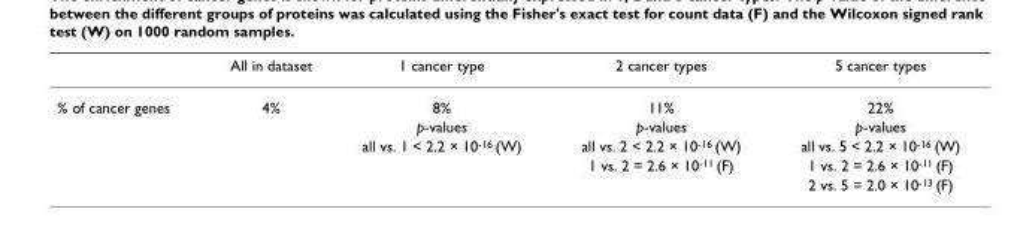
<table><thead><tr><td></td><td>All in dataset</td><td>1 cancer type</td><td>2 cancer types</td><td>5 cancer types</td></tr></thead><tbody><tr><td rowspan="5">% of cancer genes</td><td>4%</td><td>8%</td><td>11%</td><td>22%</td></tr><tr><td></td><td>p-values</td><td>p-values</td><td>p-values</td></tr><tr><td></td><td>all vs. 1 &lt; 2.2 × 10<sup>-16</sup> (W)</td><td>all vs. 2 &lt; 2.2 × 10<sup>-16</sup> (W)</td><td>all vs. 5 &lt; 2.2 × 10<sup>-16</sup> (W)</td></tr><tr><td></td><td></td><td>1 vs. 2 = 2.6 × 10<sup>-11</sup> (F)</td><td>1 vs. 2 = 2.6 × 10<sup>-11</sup> (F)</td></tr><tr><td></td><td></td><td></td><td>2 vs. 5 = 2.0 × 10<sup>-13</sup> (F)</td></tr></tbody></table>